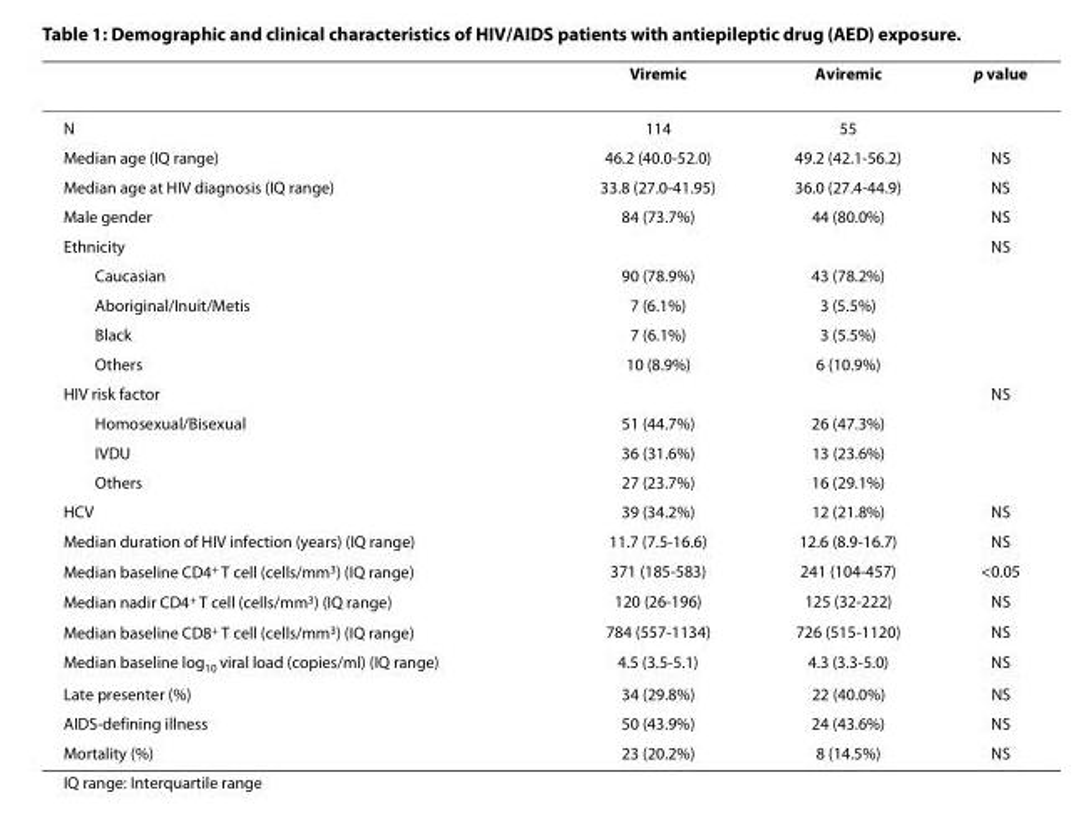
<table><thead><tr><td></td><td>Viremic</td><td>Aviremic</td><td>p value</td></tr></thead><tbody><tr><td>N</td><td>114</td><td>55</td><td></td></tr><tr><td>Median age (IQ range)</td><td>46.2 (40.0-52.0)</td><td>49.2 (42.1-56.2)</td><td>NS</td></tr><tr><td>Median age at HIV diagnosis (IQ range)</td><td>33.8 (27.0-41.95)</td><td>36.0 (27.4-44.9)</td><td>NS</td></tr><tr><td>Male gender</td><td>84 (73.7%)</td><td>44 (80.0%)</td><td>NS</td></tr><tr><td>Ethnicity</td><td></td><td></td><td>NS</td></tr><tr><td>Caucasian</td><td>90 (78.9%)</td><td>43 (78.2%)</td><td></td></tr><tr><td>Aboriginal/Inuit/Metis</td><td>7 (6.1%)</td><td>3 (5.5%)</td><td></td></tr><tr><td>Black</td><td>7 (6.1%)</td><td>3 (5.5%)</td><td></td></tr><tr><td>Others</td><td>10 (8.9%)</td><td>6 (10.9%)</td><td></td></tr><tr><td>HIV risk factor</td><td></td><td></td><td>NS</td></tr><tr><td>Homosexual/Bisexual</td><td>51 (44.7%)</td><td>26 (47.3%)</td><td></td></tr><tr><td>IVDU</td><td>36 (31.6%)</td><td>13 (23.6%)</td><td></td></tr><tr><td>Others</td><td>27 (23.7%)</td><td>16 (29.1%)</td><td></td></tr><tr><td>HCV</td><td>39 (34.2%)</td><td>12 (21.8%)</td><td>NS</td></tr><tr><td>Median duration of HIV infection (years) (IQ range)</td><td>11.7 (7.5-16.6)</td><td>12.6 (8.9-16.7)</td><td>NS</td></tr><tr><td>Median baseline CD4<sup>+</sup> T cell (cells/mm<sup>3</sup>) (IQ range)</td><td>371 (185-583)</td><td>241 (104-457)</td><td>&lt;0.05</td></tr><tr><td>Median nadir CD4<sup>+</sup> T cell (cells/mm<sup>3</sup>) (IQ range)</td><td>120 (26-196)</td><td>125 (32-222)</td><td>NS</td></tr><tr><td>Median baseline CD8<sup>+</sup> T cell (cells/mm<sup>3</sup>) (IQ range)</td><td>784 (557-1134)</td><td>726 (515-1120)</td><td>NS</td></tr><tr><td>Median baseline log<sub>10</sub> viral load (copies/ml) (IQ range)</td><td>4.5 (3.5-5.1)</td><td>4.3 (3.3-5.0)</td><td>NS</td></tr><tr><td>Late presenter (%)</td><td>34 (29.8%)</td><td>22 (40.0%)</td><td>NS</td></tr><tr><td>AIDS-defining illness</td><td>50 (43.9%)</td><td>24 (43.6%)</td><td>NS</td></tr><tr><td>Mortality (%)</td><td>23 (20.2%)</td><td>8 (14.5%)</td><td>NS</td></tr></tbody></table>